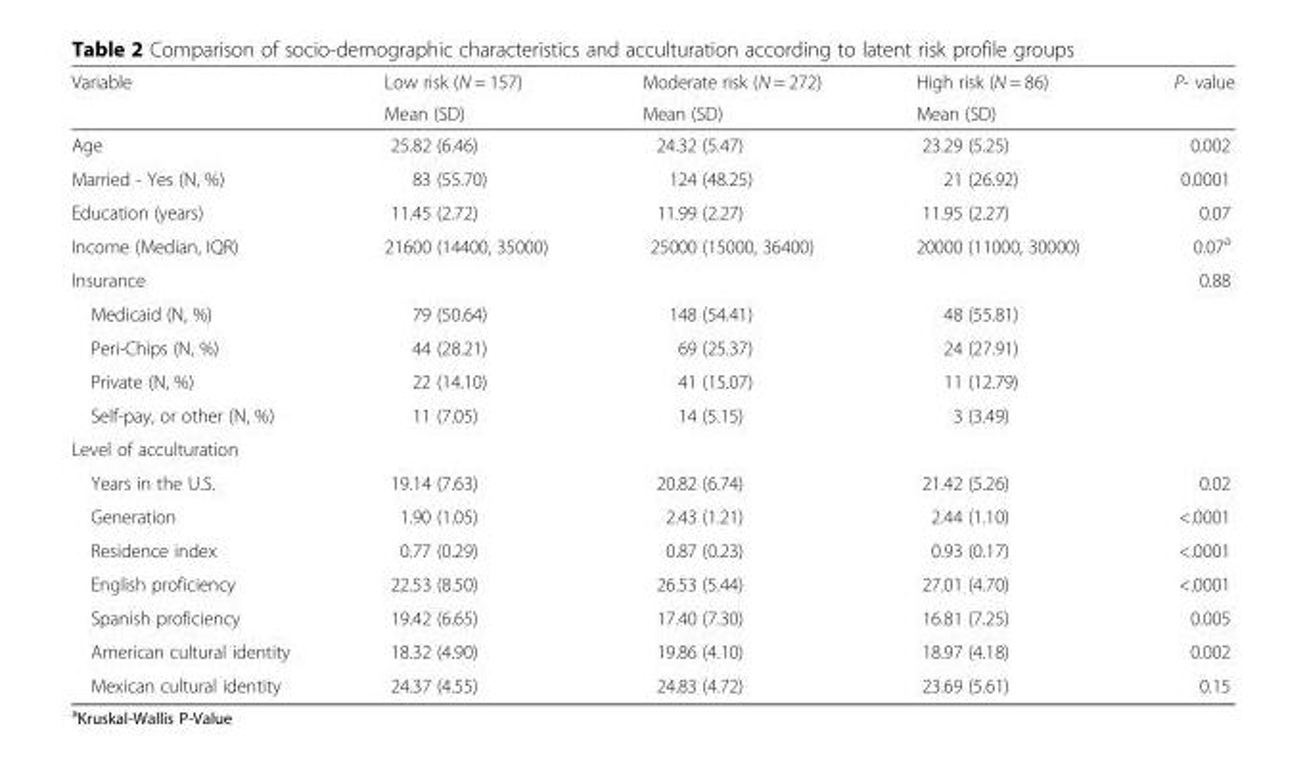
<table><thead><tr><td rowspan="2">Variable</td><td rowspan="2">Low risk (N = 157) Mean (SD)</td><td rowspan="2">Moderate risk (N = 272) Mean (SD)</td><td rowspan="2">High risk (N = 86) Mean (SD)</td><td rowspan="2">P- value</td></tr><tr></tr></thead><tbody><tr><td>Age</td><td>25.82 (6.46)</td><td>24.32 (5.47)</td><td>23.29 (5.25)</td><td>0.002</td></tr><tr><td>Married - Yes (N, %)</td><td>83 (55.70)</td><td>124 (48.25)</td><td>21 (26.92)</td><td>0.0001</td></tr><tr><td>Education (years)</td><td>11.45 (2.72)</td><td>11.99 (2.27)</td><td>11.95 (2.27)</td><td>0.07</td></tr><tr><td>Income (Median, IQR)</td><td>21600 (14400, 35000)</td><td>25000 (15000, 36400)</td><td>20000 (11000, 30000)</td><td>0.07<sup>a</sup></td></tr><tr><td>Insurance</td><td></td><td></td><td></td><td>0.88</td></tr><tr><td>Medicaid (N, %)</td><td>79 (50.64)</td><td>148 (54.41)</td><td>48 (55.81)</td><td></td></tr><tr><td>Peri-Chips (N, %)</td><td>44 (28.21)</td><td>69 (25.37)</td><td>24 (27.91)</td><td></td></tr><tr><td>Private (N, %)</td><td>22 (14.10)</td><td>41 (15.07)</td><td>11 (12.79)</td><td></td></tr><tr><td>Self-pay, or other (N, %)</td><td>11 (7.05)</td><td>14 (5.15)</td><td>3 (3.49)</td><td></td></tr><tr><td colspan="5">Level of acculturation</td></tr><tr><td>Years in the U.S.</td><td>19.14 (7.63)</td><td>20.82 (6.74)</td><td>21.42 (5.26)</td><td>0.02</td></tr><tr><td>Generation</td><td>1.90 (1.05)</td><td>2.43 (1.21)</td><td>2.44 (1.10)</td><td>&lt;.0001</td></tr><tr><td>Residence index</td><td>0.77 (0.29)</td><td>0.87 (0.23)</td><td>0.93 (0.17)</td><td>&lt;.0001</td></tr><tr><td>English proficiency</td><td>22.53 (8.50)</td><td>26.53 (5.44)</td><td>27.01 (4.70)</td><td>&lt;.0001</td></tr><tr><td>Spanish proficiency</td><td>19.42 (6.65)</td><td>17.40 (7.30)</td><td>16.81 (7.25)</td><td>0.005</td></tr><tr><td>American cultural identity</td><td>18.32 (4.90)</td><td>19.86 (4.10)</td><td>18.97 (4.18)</td><td>0.002</td></tr><tr><td>Mexican cultural identity</td><td>24.37 (4.55)</td><td>24.83 (4.72)</td><td>23.69 (5.61)</td><td>0.15</td></tr></tbody></table>